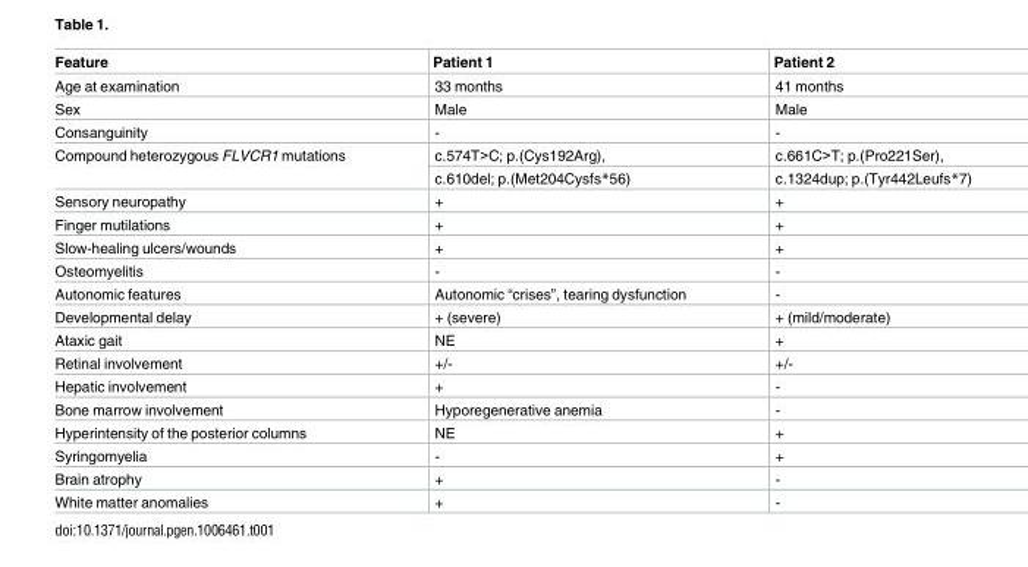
<table><thead><tr><td>Feature</td><td>Patient 1</td><td>Patient 2</td></tr></thead><tbody><tr><td>Age at examination</td><td>33 months</td><td>41 months</td></tr><tr><td>Sex</td><td>Male</td><td>Male</td></tr><tr><td>Consanguinity</td><td>-</td><td>-</td></tr><tr><td rowspan="2">Compound heterozygous FLVCR1 mutations</td><td>c.574T&gt;C; p.(Cys192Arg),</td><td>c.661C&gt;T; p.(Pro221Ser),</td></tr><tr><td>c.610del; p.(Met204Cysfs*56)</td><td>c.1324dup; p.(Tyr442Leufs*7)</td></tr><tr><td>Sensory neuropathy</td><td>+</td><td>+</td></tr><tr><td>Finger mutilations</td><td>+</td><td>+</td></tr><tr><td>Slow-healing ulcers/wounds</td><td>+</td><td>+</td></tr><tr><td>Osteomyelitis</td><td>-</td><td>-</td></tr><tr><td>Autonomic features</td><td>Autonomic “crises”, tearing dysfunction</td><td>-</td></tr><tr><td>Developmental delay</td><td>+ (severe)</td><td>+ (mild/moderate)</td></tr><tr><td>Ataxic gait</td><td>NE</td><td>+</td></tr><tr><td>Retinal involvement</td><td>+/-</td><td>+/-</td></tr><tr><td>Hepatic involvement</td><td>+</td><td>-</td></tr><tr><td>Bone marrow involvement</td><td>Hyporegenerative anemia</td><td>-</td></tr><tr><td>Hyperintensity of the posterior columns</td><td>NE</td><td>+</td></tr><tr><td>Syringomyelia</td><td>-</td><td>+</td></tr><tr><td>Brain atrophy</td><td>+</td><td>-</td></tr><tr><td>White matter anomalies</td><td>+</td><td>-</td></tr></tbody></table>